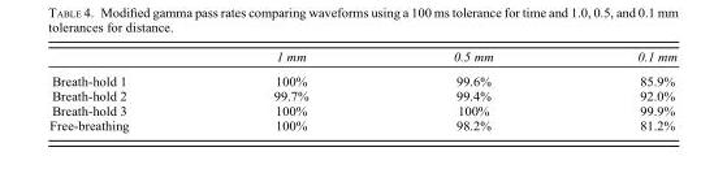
<table><thead><tr><td></td><td>1 mm</td><td>0.5 mm</td><td>0.1 mm</td></tr></thead><tbody><tr><td>Breath-hold 1</td><td>100%</td><td>99.6%</td><td>85.9%</td></tr><tr><td>Breath-hold 2</td><td>99.7%</td><td>99.4%</td><td>92.0%</td></tr><tr><td>Breath-hold 3</td><td>100%</td><td>100%</td><td>99.9%</td></tr><tr><td>Free-breathing</td><td>100%</td><td>98.2%</td><td>81.2%</td></tr></tbody></table>